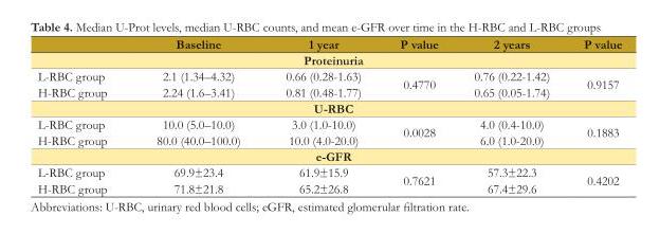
<table><thead><tr><td></td><td>Baseline</td><td>1 year</td><td>P value</td><td>2 years</td><td>P value</td></tr></thead><tbody><tr><td colspan="6">Proteinuria</td></tr><tr><td>L-RBC group</td><td>2.1 (1.34–4.32)</td><td>0.66 (0.28-1.63)</td><td rowspan="2">0.4770</td><td>0.76 (0.22-1.42)</td><td rowspan="2">0.9157</td></tr><tr><td>H-RBC group</td><td>2.24 (1.6–3.41)</td><td>0.81 (0.48-1.77)</td><td>0.65 (0.05-1.74)</td></tr><tr><td colspan="6">U-RBC</td></tr><tr><td>L-RBC group</td><td>10.0 (5.0–10.0)</td><td>3.0 (1.0-10.0)</td><td rowspan="2">0.0028</td><td>4.0 (0.4-10.0)</td><td rowspan="2">0.1883</td></tr><tr><td>H-RBC group</td><td>80.0 (40.0–100.0)</td><td>10.0 (4.0-20.0)</td><td>6.0 (1.0-20.0)</td></tr><tr><td colspan="6">e-GFR</td></tr><tr><td>L-RBC group</td><td>69.9±23.4</td><td>61.9±15.9</td><td rowspan="2">0.7621</td><td>57.3±22.3</td><td rowspan="2">0.4202</td></tr><tr><td>H-RBC group</td><td>71.8±21.8</td><td>65.2±26.8</td><td>67.4±29.6</td></tr></tbody></table>